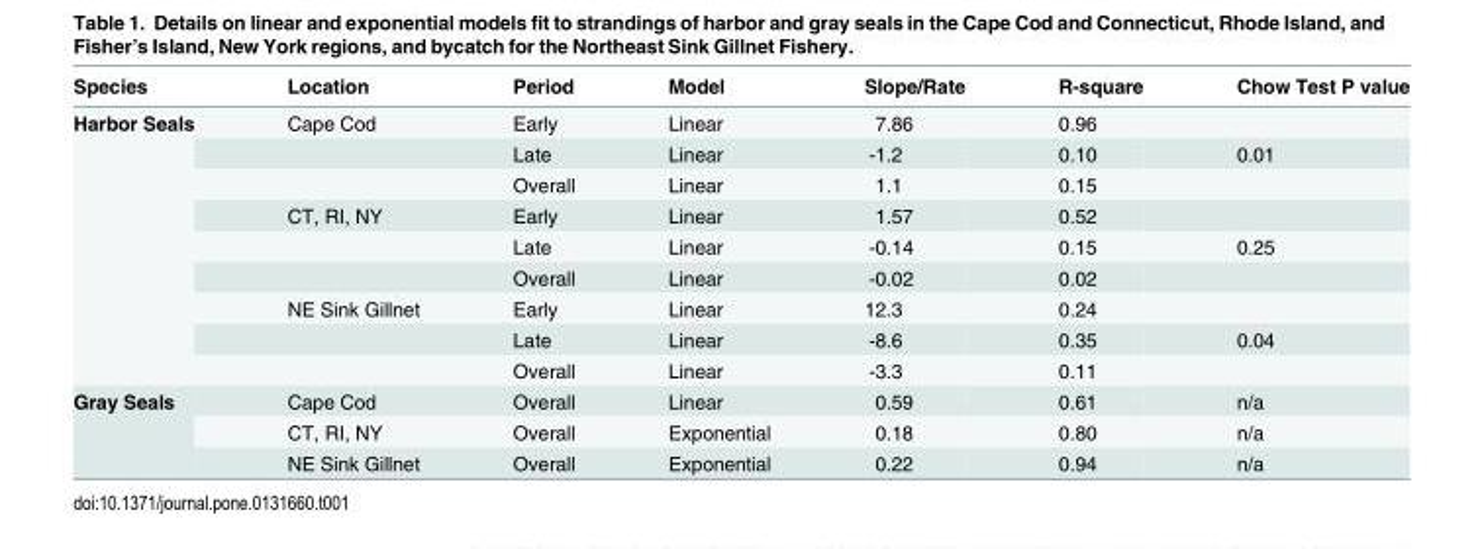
<table><thead><tr><td>Species</td><td>Location</td><td>Period</td><td>Model</td><td>Slope/Rate</td><td>R-square</td><td>Chow Test P value</td></tr></thead><tbody><tr><td rowspan="9">Harbor Seals</td><td>Cape Cod</td><td>Early</td><td>Linear</td><td>7.86</td><td>0.96</td><td></td></tr><tr><td></td><td>Late</td><td>Linear</td><td>-1.2</td><td>0.10</td><td>0.01</td></tr><tr><td></td><td>Overall</td><td>Linear</td><td>1.1</td><td>0.15</td><td></td></tr><tr><td>CT, RI, NY</td><td>Early</td><td>Linear</td><td>1.57</td><td>0.52</td><td></td></tr><tr><td></td><td>Late</td><td>Linear</td><td>-0.14</td><td>0.15</td><td>0.25</td></tr><tr><td></td><td>Overall</td><td>Linear</td><td>-0.02</td><td>0.02</td><td></td></tr><tr><td>NE Sink Gillnet</td><td>Early</td><td>Linear</td><td>12.3</td><td>0.24</td><td></td></tr><tr><td></td><td>Late</td><td>Linear</td><td>-8.6</td><td>0.35</td><td>0.04</td></tr><tr><td></td><td>Overall</td><td>Linear</td><td>-3.3</td><td>0.11</td><td></td></tr><tr><td rowspan="3">Gray Seals</td><td>Cape Cod</td><td>Overall</td><td>Linear</td><td>0.59</td><td>0.61</td><td>n/a</td></tr><tr><td>CT, RI, NY</td><td>Overall</td><td>Exponential</td><td>0.18</td><td>0.80</td><td>n/a</td></tr><tr><td>NE Sink Gillnet</td><td>Overall</td><td>Exponential</td><td>0.22</td><td>0.94</td><td>n/a</td></tr></tbody></table>